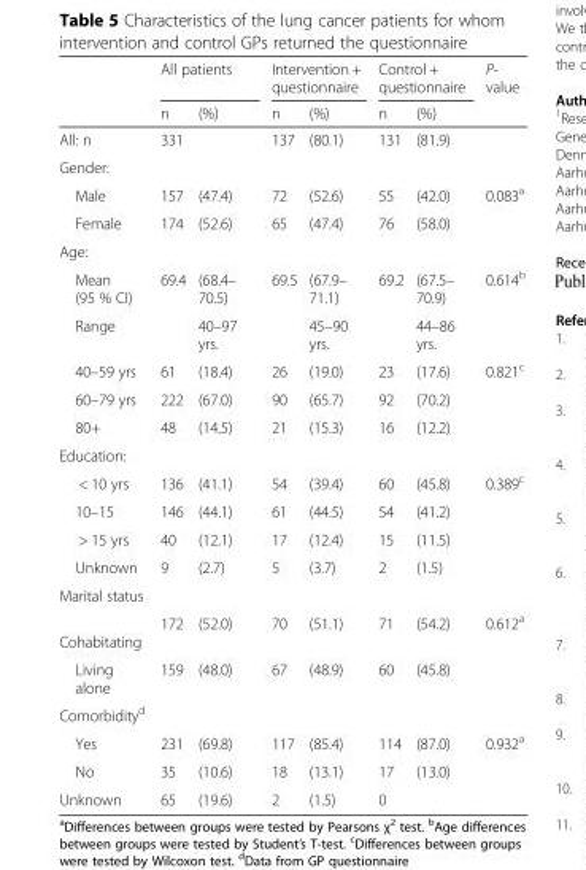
<table><thead><tr><td rowspan="2"></td><td colspan="2">All patients</td><td colspan="2">Intervention + questionnaire</td><td colspan="2">Control + questionnaire</td><td rowspan="2">P- value</td></tr><tr><td>n</td><td>(%)</td><td>n</td><td>(%)</td><td>n</td><td>(%)</td></tr></thead><tbody><tr><td>All: n</td><td>331</td><td></td><td>137</td><td>(80.1)</td><td>131</td><td>(81.9)</td><td></td></tr><tr><td colspan="8">Gender:</td></tr><tr><td>Male</td><td>157</td><td>(47.4)</td><td>72</td><td>(52.6)</td><td>55</td><td>(42.0)</td><td>0.083<sup>a</sup></td></tr><tr><td>Female</td><td>174</td><td>(52.6)</td><td>65</td><td>(47.4)</td><td>76</td><td>(58.0)</td><td></td></tr><tr><td colspan="8">Age:</td></tr><tr><td>Mean (95 % CI)</td><td>69.4</td><td>(68.4– 70.5)</td><td>69.5</td><td>(67.9– 71.1)</td><td>69.2</td><td>(67.5– 70.9)</td><td>0.614<sup>b</sup></td></tr><tr><td>Range</td><td></td><td>40–97 yrs.</td><td></td><td>45–90 yrs.</td><td></td><td>44–86 yrs.</td><td></td></tr><tr><td>40–59 yrs</td><td>61</td><td>(18.4)</td><td>26</td><td>(19.0)</td><td>23</td><td>(17.6)</td><td>0.821<sup>c</sup></td></tr><tr><td>60–79 yrs</td><td>222</td><td>(67.0)</td><td>90</td><td>(65.7)</td><td>92</td><td>(70.2)</td><td></td></tr><tr><td>80+</td><td>48</td><td>(14.5)</td><td>21</td><td>(15.3)</td><td>16</td><td>(12.2)</td><td></td></tr><tr><td colspan="8">Education:</td></tr><tr><td>&lt; 10 yrs</td><td>136</td><td>(41.1)</td><td>54</td><td>(39.4)</td><td>60</td><td>(45.8)</td><td>0.389<sup>c</sup></td></tr><tr><td>10–15</td><td>146</td><td>(44.1)</td><td>61</td><td>(44.5)</td><td>54</td><td>(41.2)</td><td></td></tr><tr><td>&gt; 15 yrs</td><td>40</td><td>(12.1)</td><td>17</td><td>(12.4)</td><td>15</td><td>(11.5)</td><td></td></tr><tr><td>Unknown</td><td>9</td><td>(2.7)</td><td>5</td><td>(3.7)</td><td>2</td><td>(1.5)</td><td></td></tr><tr><td colspan="8">Marital status</td></tr><tr><td>Cohabitating</td><td>172</td><td>(52.0)</td><td>70</td><td>(51.1)</td><td>71</td><td>(54.2)</td><td>0.612<sup>a</sup></td></tr><tr><td>Living alone</td><td>159</td><td>(48.0)</td><td>67</td><td>(48.9)</td><td>60</td><td>(45.8)</td><td></td></tr><tr><td colspan="8">Comorbidity<sup>d</sup></td></tr><tr><td>Yes</td><td>231</td><td>(69.8)</td><td>117</td><td>(85.4)</td><td>114</td><td>(87.0)</td><td>0.932<sup>a</sup></td></tr><tr><td>No</td><td>35</td><td>(10.6)</td><td>18</td><td>(13.1)</td><td>17</td><td>(13.0)</td><td></td></tr><tr><td>Unknown</td><td>65</td><td>(19.6)</td><td>2</td><td>(1.5)</td><td>0</td><td></td><td></td></tr></tbody></table>